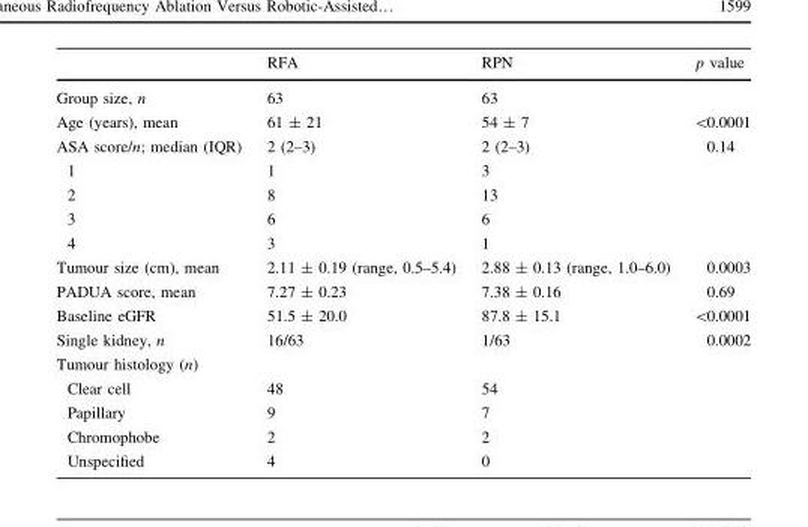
<table><thead><tr><td></td><td>RFA</td><td>RPN</td><td>p value</td></tr></thead><tbody><tr><td>Group size, n</td><td>63</td><td>63</td><td></td></tr><tr><td>Age (years), mean</td><td>61 ± 21</td><td>54 ± 7</td><td>&lt;0.0001</td></tr><tr><td>ASA score/n; median (IQR)</td><td>2 (2–3)</td><td>2 (2–3)</td><td rowspan="5">0.14</td></tr><tr><td>1</td><td>1</td><td>3</td></tr><tr><td>2</td><td>8</td><td>13</td></tr><tr><td>3</td><td>6</td><td>6</td></tr><tr><td>4</td><td>3</td><td>1</td></tr><tr><td>Tumour size (cm), mean</td><td>2.11 ± 0.19 (range, 0.5–5.4)</td><td>2.88 ± 0.13 (range, 1.0–6.0)</td><td>0.0003</td></tr><tr><td>PADUA score, mean</td><td>7.27 ± 0.23</td><td>7.38 ± 0.16</td><td>0.69</td></tr><tr><td>Baseline eGFR</td><td>51.5 ± 20.0</td><td>87.8 ± 15.1</td><td>&lt;0.0001</td></tr><tr><td>Single kidney, n</td><td>16/63</td><td>1/63</td><td>0.0002</td></tr><tr><td colspan="4">Tumour histology (n)</td></tr><tr><td>Clear cell</td><td>48</td><td>54</td><td rowspan="4"></td></tr><tr><td>Papillary</td><td>9</td><td>7</td></tr><tr><td>Chromophobe</td><td>2</td><td>2</td></tr><tr><td>Unspecified</td><td>4</td><td>0</td></tr></tbody></table>